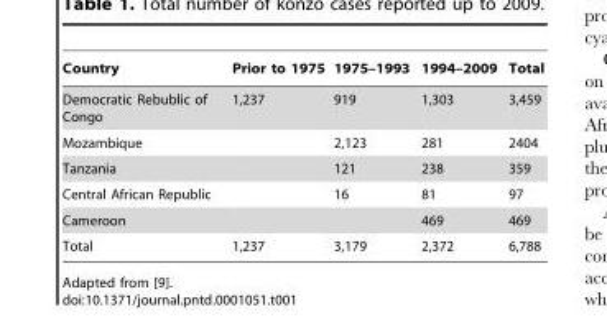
<table><thead><tr><td>Country</td><td>Prior to 1975</td><td>1975–1993</td><td>1994–2009</td><td>Total</td></tr></thead><tbody><tr><td>Democratic Rebublic of Congo</td><td>1,237</td><td>919</td><td>1,303</td><td>3,459</td></tr><tr><td>Mozambique</td><td></td><td>2,123</td><td>281</td><td>2404</td></tr><tr><td>Tanzania</td><td></td><td>121</td><td>238</td><td>359</td></tr><tr><td>Central African Republic</td><td></td><td>16</td><td>81</td><td>97</td></tr><tr><td>Cameroon</td><td></td><td></td><td>469</td><td>469</td></tr><tr><td>Total</td><td>1,237</td><td>3,179</td><td>2,372</td><td>6,788</td></tr></tbody></table>